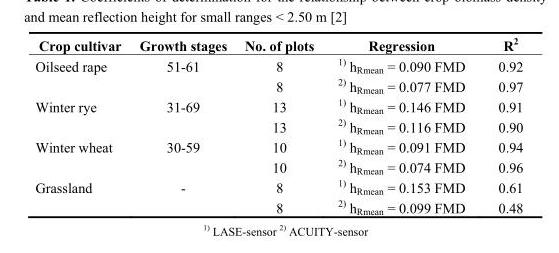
<table><thead><tr><td>Crop cultivar</td><td>Growth stages</td><td>No. of plots</td><td>Regression</td><td>R<sup>2</sup></td></tr></thead><tbody><tr><td rowspan="2">Oilseed rape</td><td rowspan="2">51-61</td><td>8</td><td><sup>1)</sup> h<sub>Rmean</sub> = 0.090 FMD</td><td>0.92</td></tr><tr><td>8</td><td>2) h<sub>Rmean</sub> = 0.077 FMD</td><td>0.97</td></tr><tr><td rowspan="2">Winter rye</td><td rowspan="2">31-69</td><td>13</td><td><sup>1)</sup> h<sub>Rmean</sub> = 0.146 FMD</td><td>0.91</td></tr><tr><td>13</td><td>2) h<sub>Rmean</sub> = 0.116 FMD</td><td>0.90</td></tr><tr><td rowspan="2">Winter wheat</td><td rowspan="2">30-59</td><td>10</td><td><sup>1)</sup> h<sub>Rmean</sub> = 0.091 FMD</td><td>0.94</td></tr><tr><td>10</td><td>2) h<sub>Rmean</sub> = 0.074 FMD</td><td>0.96</td></tr><tr><td rowspan="2">Grassland</td><td rowspan="2">-</td><td>8</td><td><sup>1)</sup> h<sub>Rmean</sub> = 0.153 FMD</td><td>0.61</td></tr><tr><td>8</td><td>2) h<sub>Rmean</sub> = 0.099 FMD</td><td>0.48</td></tr></tbody></table>